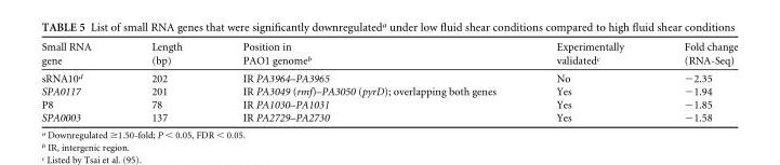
<table><thead><tr><td>Small RNA gene</td><td>Length (bp)</td><td>Position in PAO1 genome<sup>b</sup></td><td>Experimentally validated<sup>c</sup></td><td>Fold change (RNA-Seq)</td></tr></thead><tbody><tr><td>sRNA10<sup>d</sup></td><td>202</td><td>IR PA3964–PA3965</td><td>No</td><td>−2.35</td></tr><tr><td>SPA0117</td><td>201</td><td>IR PA3049 (rmf)–PA3050 (pyrD); overlapping both genes</td><td>Yes</td><td>−1.94</td></tr><tr><td>P8</td><td>78</td><td>IR PA1030–PA1031</td><td>Yes</td><td>−1.85</td></tr><tr><td>SPA0003</td><td>137</td><td>IR PA2729–PA2730</td><td>Yes</td><td>−1.58</td></tr></tbody></table>